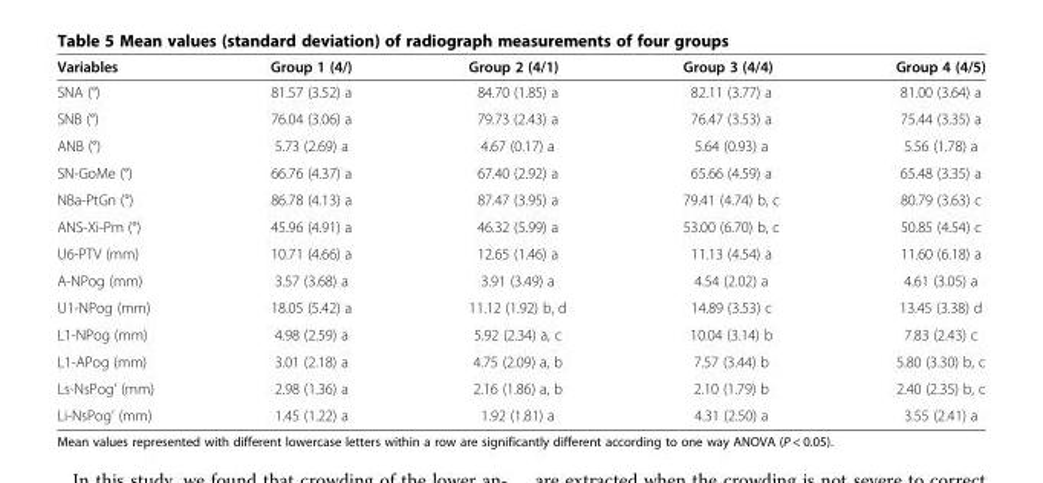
<table><thead><tr><td>Variables</td><td>Group 1 (4/)</td><td>Group 2 (4/1)</td><td>Group 3 (4/4)</td><td>Group 4 (4/5)</td></tr></thead><tbody><tr><td>SNA (°)</td><td>81.57 (3.52) a</td><td>84.70 (1.85) a</td><td>82.11 (3.77) a</td><td>81.00 (3.64) a</td></tr><tr><td>SNB (°)</td><td>76.04 (3.06) a</td><td>79.73 (2.43) a</td><td>76.47 (3.53) a</td><td>75.44 (3.35) a</td></tr><tr><td>ANB (°)</td><td>5.73 (2.69) a</td><td>4.67 (0.17) a</td><td>5.64 (0.93) a</td><td>5.56 (1.78) a</td></tr><tr><td>SN-GoMe (°)</td><td>66.76 (4.37) a</td><td>67.40 (2.92) a</td><td>65.66 (4.59) a</td><td>65.48 (3.35) a</td></tr><tr><td>NBa-PtGn (°)</td><td>86.78 (4.13) a</td><td>87.47 (3.95) a</td><td>79.41 (4.74) b, c</td><td>80.79 (3.63) c</td></tr><tr><td>ANS-Xi-Pm (°)</td><td>45.96 (4.91) a</td><td>46.32 (5.99) a</td><td>53.00 (6.70) b, c</td><td>50.85 (4.54) c</td></tr><tr><td>U6-PTV (mm)</td><td>10.71 (4.66) a</td><td>12.65 (1.46) a</td><td>11.13 (4.54) a</td><td>11.60 (6.18) a</td></tr><tr><td>A-NPog (mm)</td><td>3.57 (3.68) a</td><td>3.91 (3.49) a</td><td>4.54 (2.02) a</td><td>4.61 (3.05) a</td></tr><tr><td>U1-NPog (mm)</td><td>18.05 (5.42) a</td><td>11.12 (1.92) b, d</td><td>14.89 (3.53) c</td><td>13.45 (3.38) d</td></tr><tr><td>L1-NPog (mm)</td><td>4.98 (2.59) a</td><td>5.92 (2.34) a, c</td><td>10.04 (3.14) b</td><td>7.83 (2.43) c</td></tr><tr><td>L1-APog (mm)</td><td>3.01 (2.18) a</td><td>4.75 (2.09) a, b</td><td>7.57 (3.44) b</td><td>5.80 (3.30) b, c</td></tr><tr><td>Ls-NsPog&#x27; (mm)</td><td>2.98 (1.36) a</td><td>2.16 (1.86) a, b</td><td>2.10 (1.79) b</td><td>2.40 (2.35) b, c</td></tr><tr><td>Li-NsPog&#x27; (mm)</td><td>1.45 (1.22) a</td><td>1.92 (1.81) a</td><td>4.31 (2.50) a</td><td>3.55 (2.41) a</td></tr></tbody></table>